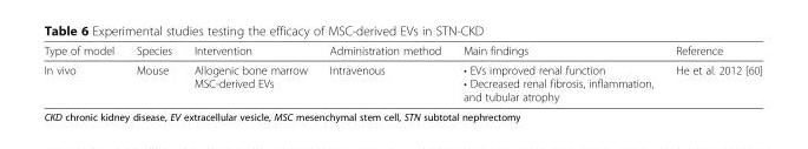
<table><thead><tr><td>Type of model</td><td>Species</td><td>Intervention</td><td>Administration method</td><td>Main findings</td><td>Reference</td></tr></thead><tbody><tr><td>In vivo</td><td>Mouse</td><td>Allogenic bone marrow MSC-derived EVs</td><td>Intravenous</td><td>• EVs improved renal function • Decreased renal fibrosis, inflammation, and tubular atrophy</td><td>He et al. 2012 [60]</td></tr></tbody></table>